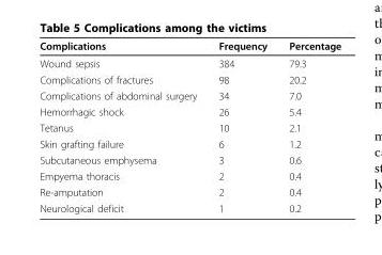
<table><thead><tr><td>Complications</td><td>Frequency</td><td>Percentage</td></tr></thead><tbody><tr><td>Wound sepsis</td><td>384</td><td>79.3</td></tr><tr><td>Complications of fractures</td><td>98</td><td>20.2</td></tr><tr><td>Complications of abdominal surgery</td><td>34</td><td>7.0</td></tr><tr><td>Hemorrhagic shock</td><td>26</td><td>5.4</td></tr><tr><td>Tetanus</td><td>10</td><td>2.1</td></tr><tr><td>Skin grafting failure</td><td>6</td><td>1.2</td></tr><tr><td>Subcutaneous emphysema</td><td>3</td><td>0.6</td></tr><tr><td>Empyema thoracis</td><td>2</td><td>0.4</td></tr><tr><td>Re-amputation</td><td>2</td><td>0.4</td></tr><tr><td>Neurological deficit</td><td>1</td><td>0.2</td></tr></tbody></table>